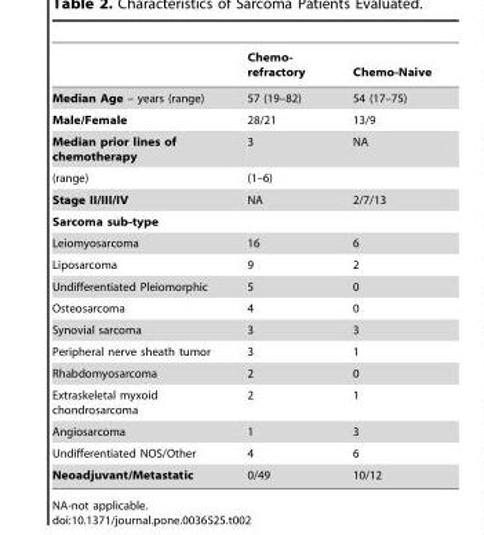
<table><thead><tr><td></td><td>Chemo- refractory</td><td>Chemo-Naive</td></tr></thead><tbody><tr><td>Median Age – years (range)</td><td>57 (19–82)</td><td>54 (17–75)</td></tr><tr><td>Male/Female</td><td>28/21</td><td>13/9</td></tr><tr><td>Median prior lines of chemotherapy</td><td>3</td><td>NA</td></tr><tr><td>(range)</td><td>(1–6)</td><td></td></tr><tr><td>Stage II/III/IV</td><td>NA</td><td>2/7/13</td></tr><tr><td colspan="3">Sarcoma sub-type</td></tr><tr><td>Leiomyosarcoma</td><td>16</td><td>6</td></tr><tr><td>Liposarcoma</td><td>9</td><td>2</td></tr><tr><td>Undifferentiated Pleiomorphic</td><td>5</td><td>0</td></tr><tr><td>Osteosarcoma</td><td>4</td><td>0</td></tr><tr><td>Synovial sarcoma</td><td>3</td><td>3</td></tr><tr><td>Peripheral nerve sheath tumor</td><td>3</td><td>1</td></tr><tr><td>Rhabdomyosarcoma</td><td>2</td><td>0</td></tr><tr><td>Extraskeletal myxoid chondrosarcoma</td><td>2</td><td>1</td></tr><tr><td>Angiosarcoma</td><td>1</td><td>3</td></tr><tr><td>Undifferentiated NOS/Other</td><td>4</td><td>6</td></tr><tr><td>Neoadjuvant/Metastatic</td><td>0/49</td><td>10/12</td></tr></tbody></table>